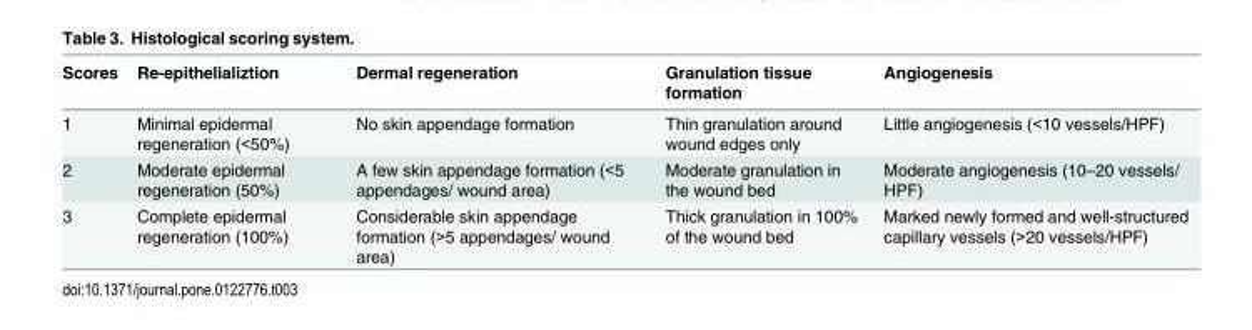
<table><thead><tr><td>Scores</td><td>Re-epithelializtion</td><td>Dermal regeneration</td><td>Granulation tissue formation</td><td>Angiogenesis</td></tr></thead><tbody><tr><td>1</td><td>Minimal epidermal regeneration (&lt;50%)</td><td>No skin appendage formation</td><td>Thin granulation around wound edges only</td><td>Little angiogenesis (&lt;10 vessels/HPF)</td></tr><tr><td>2</td><td>Moderate epidermal regeneration (50%)</td><td>A few skin appendage formation (&lt;5 appendages/ wound area)</td><td>Moderate granulation in the wound bed</td><td>Moderate angiogenesis (10–20 vessels/ HPF)</td></tr><tr><td>3</td><td>Complete epidermal regeneration (100%)</td><td>Considerable skin appendage formation (&gt;5 appendages/ wound area)</td><td>Thick granulation in 100% of the wound bed</td><td>Marked newly formed and well-structured capillary vessels (&gt;20 vessels/HPF)</td></tr></tbody></table>